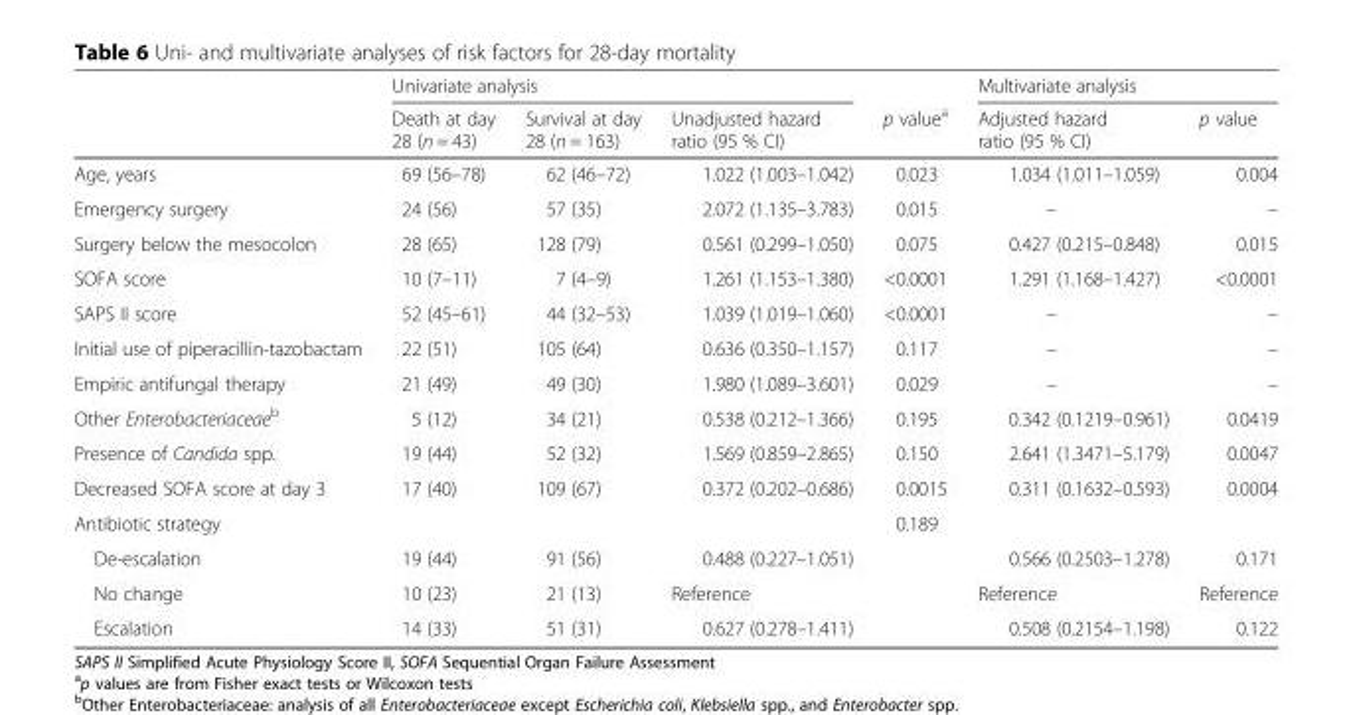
<table><thead><tr><td rowspan="2"></td><td colspan="3">Univariate analysis</td><td rowspan="2">p value<sup>a</sup></td><td colspan="2">Multivariate analysis</td></tr><tr><td>Death at day 28 (n = 43)</td><td>Survival at day 28 (n = 163)</td><td>Unadjusted hazard ratio (95 % CI)</td><td>Adjusted hazard ratio (95 % CI)</td><td>p value</td></tr></thead><tbody><tr><td>Age, years</td><td>69 (56–78)</td><td>62 (46–72)</td><td>1.022 (1.003–1.042)</td><td>0.023</td><td>1.034 (1.011–1.059)</td><td>0.004</td></tr><tr><td>Emergency surgery</td><td>24 (56)</td><td>57 (35)</td><td>2.072 (1.135–3.783)</td><td>0.015</td><td>–</td><td>–</td></tr><tr><td>Surgery below the mesocolon</td><td>28 (65)</td><td>128 (79)</td><td>0.561 (0.299–1.050)</td><td>0.075</td><td>0.427 (0.215–0.848)</td><td>0.015</td></tr><tr><td>SOFA score</td><td>10 (7–11)</td><td>7 (4–9)</td><td>1.261 (1.153–1.380)</td><td>&lt;0.0001</td><td>1.291 (1.168–1.427)</td><td>&lt;0.0001</td></tr><tr><td>SAPS II score</td><td>52 (45–61)</td><td>44 (32–53)</td><td>1.039 (1.019–1.060)</td><td>&lt;0.0001</td><td>–</td><td>–</td></tr><tr><td>Initial use of piperacillin-tazobactam</td><td>22 (51)</td><td>105 (64)</td><td>0.636 (0.350–1.157)</td><td>0.117</td><td>–</td><td>–</td></tr><tr><td>Empiric antifungal therapy</td><td>21 (49)</td><td>49 (30)</td><td>1.980 (1.089–3.601)</td><td>0.029</td><td>–</td><td>–</td></tr><tr><td>Other Enterobacteriaceae<sup>b</sup></td><td>5 (12)</td><td>34 (21)</td><td>0.538 (0.212–1.366)</td><td>0.195</td><td>0.342 (0.1219–0.961)</td><td>0.0419</td></tr><tr><td>Presence of Candida spp.</td><td>19 (44)</td><td>52 (32)</td><td>1.569 (0.859–2.865)</td><td>0.150</td><td>2.641 (1.3471–5.179)</td><td>0.0047</td></tr><tr><td>Decreased SOFA score at day 3</td><td>17 (40)</td><td>109 (67)</td><td>0.372 (0.202–0.686)</td><td>0.0015</td><td>0.311 (0.1632–0.593)</td><td>0.0004</td></tr><tr><td>Antibiotic strategy</td><td></td><td></td><td></td><td>0.189</td><td></td><td></td></tr><tr><td>De-escalation</td><td>19 (44)</td><td>91 (56)</td><td>0.488 (0.227–1.051)</td><td></td><td>0.566 (0.2503–1.278)</td><td>0.171</td></tr><tr><td>No change</td><td>10 (23)</td><td>21 (13)</td><td>Reference</td><td></td><td>Reference</td><td>Reference</td></tr><tr><td>Escalation</td><td>14 (33)</td><td>51 (31)</td><td>0.627 (0.278–1.411)</td><td></td><td>0.508 (0.2154–1.198)</td><td>0.122</td></tr></tbody></table>